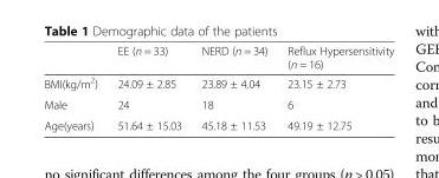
<table><thead><tr><td></td><td>EE (n = 33)</td><td>NERD (n = 34)</td><td>Reflux Hypersensitivity (n = 16)</td></tr></thead><tbody><tr><td>BMI(kg/m<sup>2</sup>)</td><td>24.09 ± 2.85</td><td>23.89 ± 4.04</td><td>23.15 ± 2.73</td></tr><tr><td>Male</td><td>24</td><td>18</td><td>6</td></tr><tr><td>Age(years)</td><td>51.64 ± 15.03</td><td>45.18 ± 11.53</td><td>49.19 ± 12.75</td></tr></tbody></table>